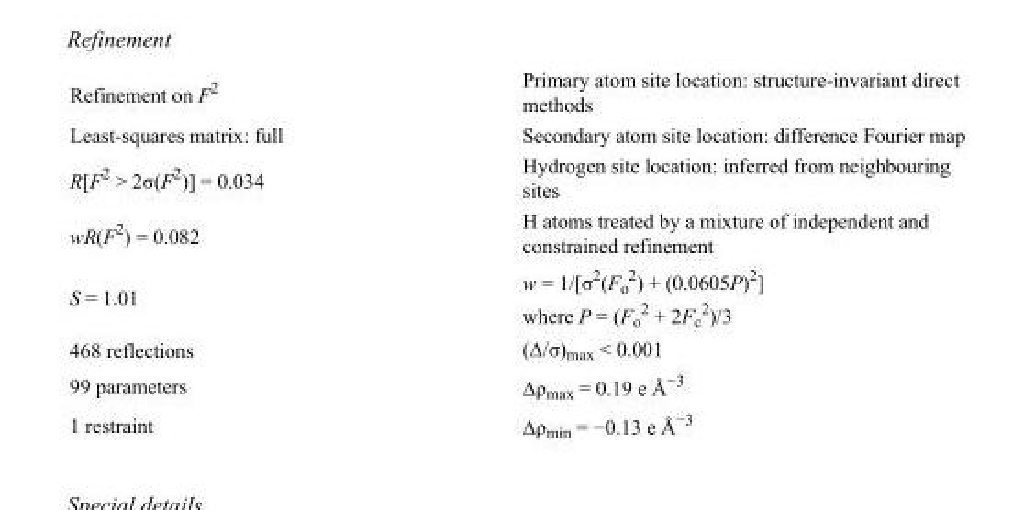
<table><tbody><tr><td>Refinement on F<sup>2</sup></td><td>Primary atom site location: structure-invariant direct methods</td></tr><tr><td>Least-squares matrix: full</td><td>Secondary atom site location: difference Fourier map</td></tr><tr><td>R[F<sup>2</sup> &gt; 2σ(F<sup>2</sup>)] = 0.034</td><td>Hydrogen site location: inferred from neighbouring sites</td></tr><tr><td>wR(F<sup>2</sup>) = 0.082</td><td>H atoms treated by a mixture of independent and constrained refinement</td></tr><tr><td>S = 1.01</td><td>w = 1/[σ<sup>2</sup>(F<sub>o</sub> <sup>2</sup>) + (0.0605P)<sup>2</sup>] where P = (F<sub>o</sub> <sup>2</sup> + 2F<sub>c</sub> <sup>2</sup>)/3</td></tr><tr><td>468 reflections</td><td>(Δ/σ)<sub>max</sub> &lt; 0.001</td></tr><tr><td>99 parameters</td><td>Δρ<sub>max</sub> = 0.19 e Å<sup>−3</sup></td></tr><tr><td>1 restraint</td><td>Δρ<sub>min</sub> = −0.13 e Å<sup>−3</sup></td></tr></tbody></table>